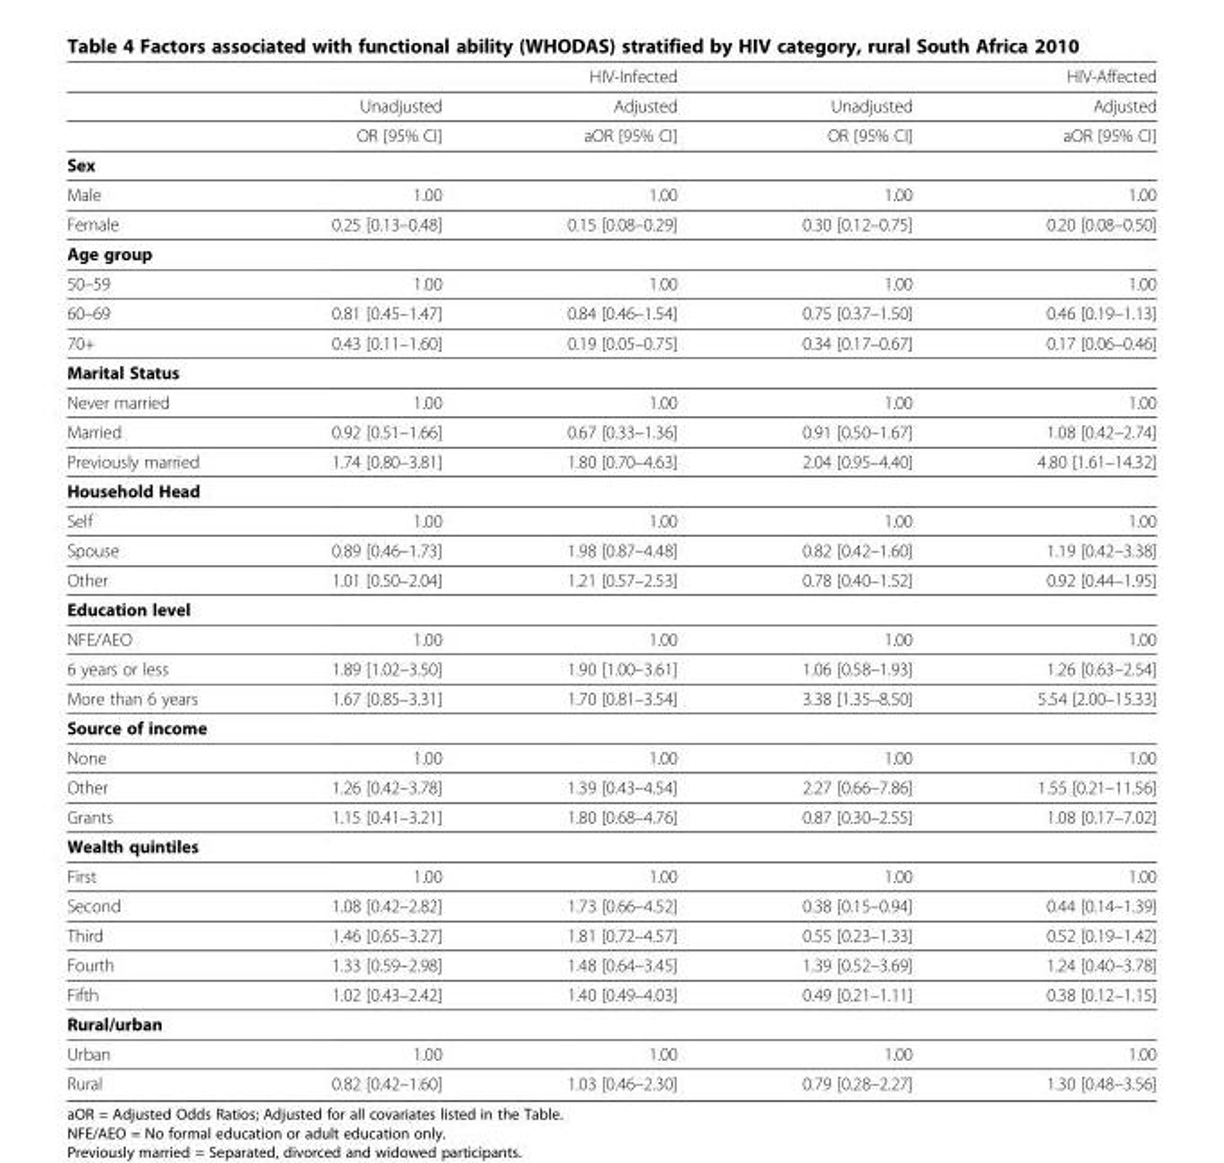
<table><thead><tr><td rowspan="2"></td><td colspan="2">HIV-Infected</td><td colspan="2">HIV-Affected</td></tr><tr><td>Unadjusted</td><td>Adjusted</td><td>Unadjusted</td><td>Adjusted</td></tr></thead><tbody><tr><td></td><td>OR [95% CI]</td><td>aOR [95% CI]</td><td>OR [95% CI]</td><td>aOR [95% CI]</td></tr><tr><td colspan="5">Sex</td></tr><tr><td>Male</td><td>1.00</td><td>1.00</td><td>1.00</td><td>1.00</td></tr><tr><td>Female</td><td>0.25 [0.13–0.48]</td><td>0.15 [0.08–0.29]</td><td>0.30 [0.12–0.75]</td><td>0.20 [0.08–0.50]</td></tr><tr><td colspan="5">Age group</td></tr><tr><td>50–59</td><td>1.00</td><td>1.00</td><td>1.00</td><td>1.00</td></tr><tr><td>60–69</td><td>0.81 [0.45–1.47]</td><td>0.84 [0.46–1.54]</td><td>0.75 [0.37–1.50]</td><td>0.46 [0.19–1.13]</td></tr><tr><td>70+</td><td>0.43 [0.11–1.60]</td><td>0.19 [0.05–0.75]</td><td>0.34 [0.17–0.67]</td><td>0.17 [0.06–0.46]</td></tr><tr><td colspan="5">Marital Status</td></tr><tr><td>Never married</td><td>1.00</td><td>1.00</td><td>1.00</td><td>1.00</td></tr><tr><td>Married</td><td>0.92 [0.51–1.66]</td><td>0.67 [0.33–1.36]</td><td>0.91 [0.50–1.67]</td><td>1.08 [0.42–2.74]</td></tr><tr><td>Previously married</td><td>1.74 [0.80–3.81]</td><td>1.80 [0.70–4.63]</td><td>2.04 [0.95–4.40]</td><td>4.80 [1.61–14.32]</td></tr><tr><td colspan="5">Household Head</td></tr><tr><td>Self</td><td>1.00</td><td>1.00</td><td>1.00</td><td>1.00</td></tr><tr><td>Spouse</td><td>0.89 [0.46–1.73]</td><td>1.98 [0.87–4.48]</td><td>0.82 [0.42–1.60]</td><td>1.19 [0.42–3.38]</td></tr><tr><td>Other</td><td>1.01 [0.50–2.04]</td><td>1.21 [0.57–2.53]</td><td>0.78 [0.40–1.52]</td><td>0.92 [0.44–1.95]</td></tr><tr><td colspan="5">Education level</td></tr><tr><td>NFE/AEO</td><td>1.00</td><td>1.00</td><td>1.00</td><td>1.00</td></tr><tr><td>6 years or less</td><td>1.89 [1.02–3.50]</td><td>1.90 [1.00–3.61]</td><td>1.06 [0.58–1.93]</td><td>1.26 [0.63–2.54]</td></tr><tr><td>More than 6 years</td><td>1.67 [0.85–3.31]</td><td>1.70 [0.81–3.54]</td><td>3.38 [1.35–8.50]</td><td>5.54 [2.00–15.33]</td></tr><tr><td colspan="5">Source of income</td></tr><tr><td>None</td><td>1.00</td><td>1.00</td><td>1.00</td><td>1.00</td></tr><tr><td>Other</td><td>1.26 [0.42–3.78]</td><td>1.39 [0.43–4.54]</td><td>2.27 [0.66–7.86]</td><td>1.55 [0.21–11.56]</td></tr><tr><td>Grants</td><td>1.15 [0.41–3.21]</td><td>1.80 [0.68–4.76]</td><td>0.87 [0.30–2.55]</td><td>1.08 [0.17–7.02]</td></tr><tr><td colspan="5">Wealth quintiles</td></tr><tr><td>First</td><td>1.00</td><td>1.00</td><td>1.00</td><td>1.00</td></tr><tr><td>Second</td><td>1.08 [0.42–2.82]</td><td>1.73 [0.66–4.52]</td><td>0.38 [0.15–0.94]</td><td>0.44 [0.14–1.39]</td></tr><tr><td>Third</td><td>1.46 [0.65–3.27]</td><td>1.81 [0.72–4.57]</td><td>0.55 [0.23–1.33]</td><td>0.52 [0.19–1.42]</td></tr><tr><td>Fourth</td><td>1.33 [0.59–2.98]</td><td>1.48 [0.64–3.45]</td><td>1.39 [0.52–3.69]</td><td>1.24 [0.40–3.78]</td></tr><tr><td>Fifth</td><td>1.02 [0.43–2.42]</td><td>1.40 [0.49–4.03]</td><td>0.49 [0.21–1.11]</td><td>0.38 [0.12–1.15]</td></tr><tr><td colspan="5">Rural/urban</td></tr><tr><td>Urban</td><td>1.00</td><td>1.00</td><td>1.00</td><td>1.00</td></tr><tr><td>Rural</td><td>0.82 [0.42–1.60]</td><td>1.03 [0.46–2.30]</td><td>0.79 [0.28–2.27]</td><td>1.30 [0.48–3.56]</td></tr></tbody></table>